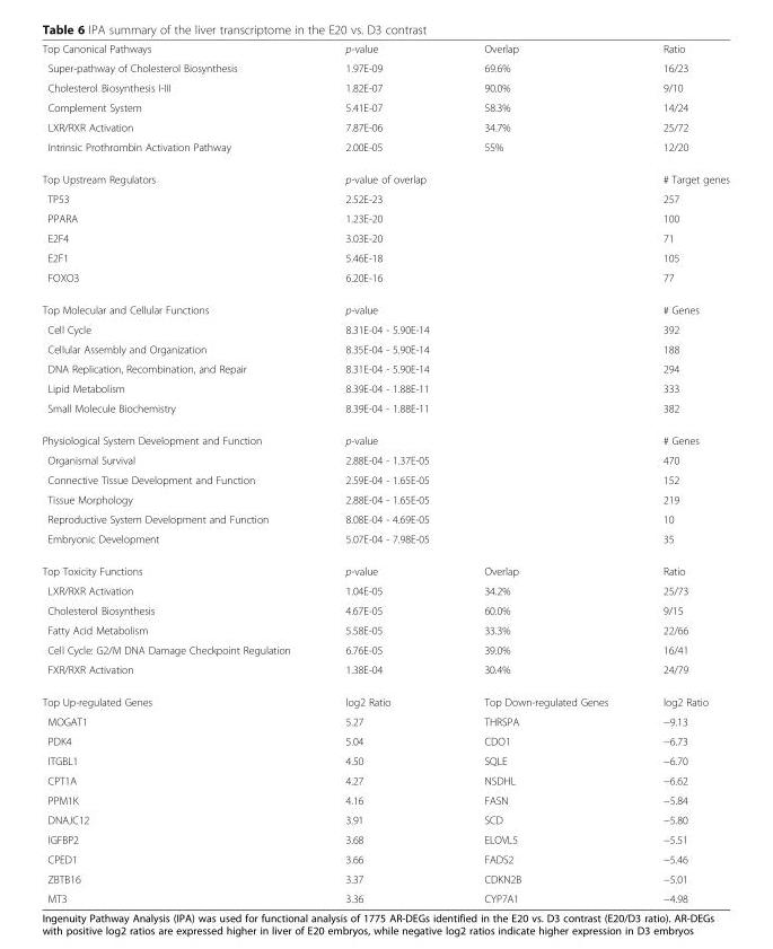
<table><tbody><tr><td>Top Canonical Pathways</td><td>p-value</td><td>Overlap</td><td>Ratio</td></tr><tr><td>Super-pathway of Cholesterol Biosynthesis</td><td>1.97E-09</td><td>69.6%</td><td>16/23</td></tr><tr><td>Cholesterol Biosynthesis I-III</td><td>1.82E-07</td><td>90.0%</td><td>9/10</td></tr><tr><td>Complement System</td><td>5.41E-07</td><td>58.3%</td><td>14/24</td></tr><tr><td>LXR/RXR Activation</td><td>7.87E-06</td><td>34.7%</td><td>25/72</td></tr><tr><td>Intrinsic Prothrombin Activation Pathway</td><td>2.00E-05</td><td>55%</td><td>12/20</td></tr><tr><td>Top Upstream Regulators</td><td>p-value of overlap</td><td></td><td># Target genes</td></tr><tr><td>TP53</td><td>2.52E-23</td><td></td><td>257</td></tr><tr><td>PPARA</td><td>1.23E-20</td><td></td><td>100</td></tr><tr><td>E2F4</td><td>3.03E-20</td><td></td><td>71</td></tr><tr><td>E2F1</td><td>5.46E-18</td><td></td><td>105</td></tr><tr><td>FOXO3</td><td>6.20E-16</td><td></td><td>77</td></tr><tr><td>Top Molecular and Cellular Functions</td><td>p-value</td><td></td><td># Genes</td></tr><tr><td>Cell Cycle</td><td>8.31E-04 - 5.90E-14</td><td></td><td>392</td></tr><tr><td>Cellular Assembly and Organization</td><td>8.35E-04 - 5.90E-14</td><td></td><td>188</td></tr><tr><td>DNA Replication, Recombination, and Repair</td><td>8.31E-04 - 5.90E-14</td><td></td><td>294</td></tr><tr><td>Lipid Metabolism</td><td>8.39E-04 - 1.88E-11</td><td></td><td>333</td></tr><tr><td>Small Molecule Biochemistry</td><td>8.39E-04 - 1.88E-11</td><td></td><td>382</td></tr><tr><td>Physiological System Development and Function</td><td>p-value</td><td></td><td># Genes</td></tr><tr><td>Organismal Survival</td><td>2.88E-04 - 1.37E-05</td><td></td><td>470</td></tr><tr><td>Connective Tissue Development and Function</td><td>2.59E-04 - 1.65E-05</td><td></td><td>152</td></tr><tr><td>Tissue Morphology</td><td>2.88E-04 - 1.65E-05</td><td></td><td>219</td></tr><tr><td>Reproductive System Development and Function</td><td>8.08E-04 - 4.69E-05</td><td></td><td>10</td></tr><tr><td>Embryonic Development</td><td>5.07E-04 - 7.98E-05</td><td></td><td>35</td></tr><tr><td>Top Toxicity Functions</td><td>p-value</td><td>Overlap</td><td>Ratio</td></tr><tr><td>LXR/RXR Activation</td><td>1.04E-05</td><td>34.2%</td><td>25/73</td></tr><tr><td>Cholesterol Biosynthesis</td><td>4.67E-05</td><td>60.0%</td><td>9/15</td></tr><tr><td>Fatty Acid Metabolism</td><td>5.58E-05</td><td>33.3%</td><td>22/66</td></tr><tr><td>Cell Cycle: G2/M DNA Damage Checkpoint Regulation</td><td>6.76E-05</td><td>39.0%</td><td>16/41</td></tr><tr><td>FXR/RXR Activation</td><td>1.38E-04</td><td>30.4%</td><td>24/79</td></tr><tr><td>Top Up-regulated Genes</td><td>log2 Ratio</td><td>Top Down-regulated Genes</td><td>log2 Ratio</td></tr><tr><td>MOGAT1</td><td>5.27</td><td>THRSPA</td><td>−9.13</td></tr><tr><td>PDK4</td><td>5.04</td><td>CDO1</td><td>−6.73</td></tr><tr><td>ITGBL1</td><td>4.50</td><td>SQLE</td><td>−6.70</td></tr><tr><td>CPT1A</td><td>4.27</td><td>NSDHL</td><td>−6.62</td></tr><tr><td>PPM1K</td><td>4.16</td><td>FASN</td><td>−5.84</td></tr><tr><td>DNAJC12</td><td>3.91</td><td>SCD</td><td>−5.80</td></tr><tr><td>IGFBP2</td><td>3.68</td><td>ELOVL5</td><td>−5.51</td></tr><tr><td>CPED1</td><td>3.66</td><td>FADS2</td><td>−5.46</td></tr><tr><td>ZBTB16</td><td>3.37</td><td>CDKN2B</td><td>−5.01</td></tr><tr><td>MT3</td><td>3.36</td><td>CYP7A1</td><td>−4.98</td></tr></tbody></table>